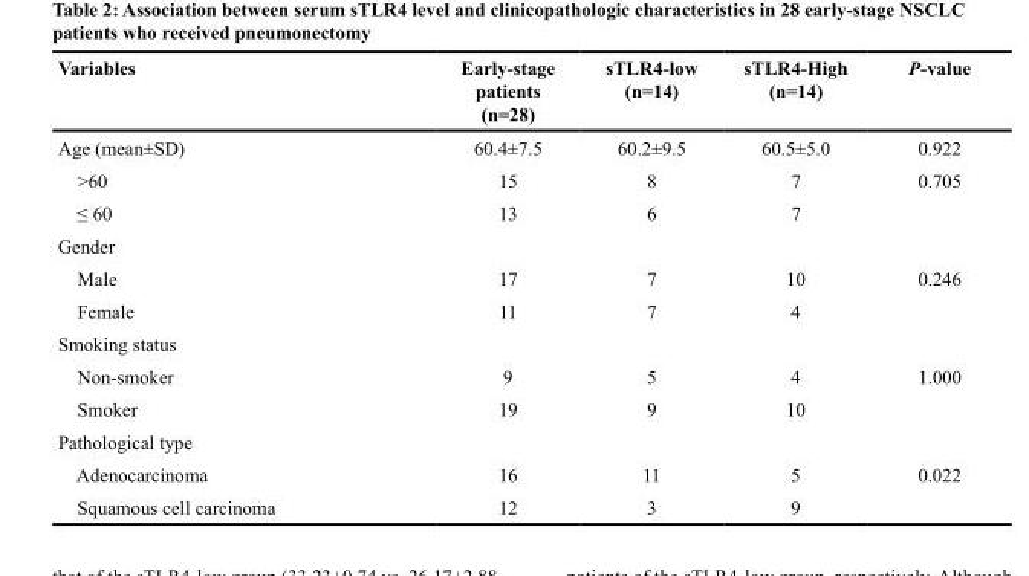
<table><thead><tr><td>Variables</td><td>Early-stage patients (n=28)</td><td>sTLR4-low (n=14)</td><td>sTLR4-High (n=14)</td><td>P-value</td></tr></thead><tbody><tr><td>Age (mean±SD)</td><td>60.4±7.5</td><td>60.2±9.5</td><td>60.5±5.0</td><td>0.922</td></tr><tr><td>&gt;60</td><td>15</td><td>8</td><td>7</td><td>0.705</td></tr><tr><td>≤ 60</td><td>13</td><td>6</td><td>7</td><td></td></tr><tr><td colspan="5">Gender</td></tr><tr><td>Male</td><td>17</td><td>7</td><td>10</td><td>0.246</td></tr><tr><td>Female</td><td>11</td><td>7</td><td>4</td><td></td></tr><tr><td colspan="5">Smoking status</td></tr><tr><td>Non-smoker</td><td>9</td><td>5</td><td>4</td><td>1.000</td></tr><tr><td>Smoker</td><td>19</td><td>9</td><td>10</td><td></td></tr><tr><td colspan="5">Pathological type</td></tr><tr><td>Adenocarcinoma</td><td>16</td><td>11</td><td>5</td><td>0.022</td></tr><tr><td>Squamous cell carcinoma</td><td>12</td><td>3</td><td>9</td><td></td></tr></tbody></table>